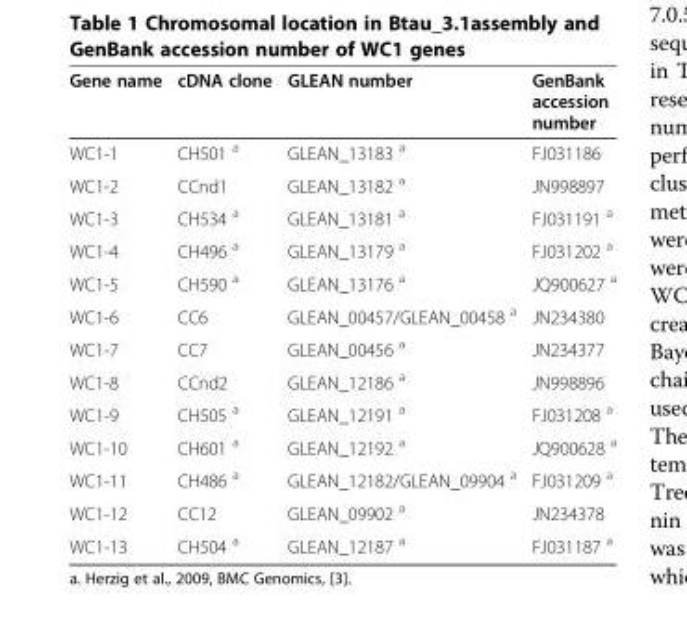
<table><thead><tr><td>Gene name</td><td>cDNA clone</td><td>GLEAN number</td><td>GenBank accession number</td></tr></thead><tbody><tr><td>WC1-1</td><td>CH501 <sup>a</sup></td><td>GLEAN_13183 <sup>a</sup></td><td>FJ031186</td></tr><tr><td>WC1-2</td><td>CCnd1</td><td>GLEAN_13182 <sup>a</sup></td><td>JN998897</td></tr><tr><td>WC1-3</td><td>CH534 <sup>a</sup></td><td>GLEAN_13181 <sup>a</sup></td><td>FJ031191 <sup>a</sup></td></tr><tr><td>WC1-4</td><td>CH496 <sup>a</sup></td><td>GLEAN_13179 <sup>a</sup></td><td>FJ031202 <sup>a</sup></td></tr><tr><td>WC1-5</td><td>CH590 <sup>a</sup></td><td>GLEAN_13176 <sup>a</sup></td><td>JQ900627 <sup>a</sup></td></tr><tr><td>WC1-6</td><td>CC6</td><td>GLEAN_00457/GLEAN_00458 <sup>a</sup></td><td>JN234380</td></tr><tr><td>WC1-7</td><td>CC7</td><td>GLEAN_00456 <sup>a</sup></td><td>JN234377</td></tr><tr><td>WC1-8</td><td>CCnd2</td><td>GLEAN_12186 <sup>a</sup></td><td>JN998896</td></tr><tr><td>WC1-9</td><td>CH505 <sup>a</sup></td><td>GLEAN_12191 <sup>a</sup></td><td>FJ031208 <sup>a</sup></td></tr><tr><td>WC1-10</td><td>CH601 <sup>a</sup></td><td>GLEAN_12192 <sup>a</sup></td><td>JQ900628 <sup>a</sup></td></tr><tr><td>WC1-11</td><td>CH486 <sup>a</sup></td><td>GLEAN_12182/GLEAN_09904 <sup>a</sup></td><td>FJ031209 <sup>a</sup></td></tr><tr><td>WC1-12</td><td>CC12</td><td>GLEAN_09902 <sup>a</sup></td><td>JN234378</td></tr><tr><td>WC1-13</td><td>CH504 <sup>a</sup></td><td>GLEAN_12187 <sup>a</sup></td><td>FJ031187 <sup>a</sup></td></tr></tbody></table>